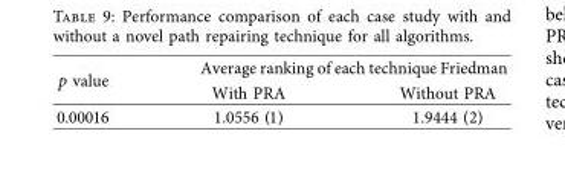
<table><thead><tr><td rowspan="2">p value</td><td colspan="2">Average ranking of each technique Friedman</td></tr><tr><td>With PRA</td><td>Without PRA</td></tr></thead><tbody><tr><td>0.00016</td><td>1.0556 (1)</td><td>1.9444 (2)</td></tr></tbody></table>